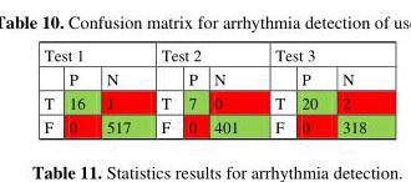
<table><thead><tr><td colspan="3">Test 1</td><td colspan="3">Test 2</td><td colspan="3">Test 3</td></tr><tr><td></td><td>P</td><td>N</td><td></td><td>P</td><td>N</td><td></td><td>P</td><td>N</td></tr></thead><tbody><tr><td>T</td><td>16</td><td>1</td><td>T</td><td>7</td><td>0</td><td>T</td><td>20</td><td>2</td></tr><tr><td>F</td><td>0</td><td>517</td><td>F</td><td>0</td><td>401</td><td>F</td><td>0</td><td>318</td></tr></tbody></table>